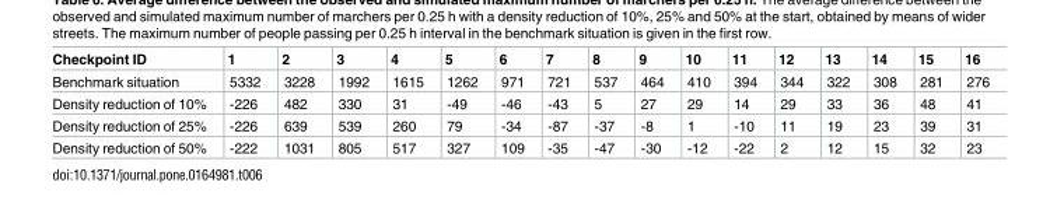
<table><thead><tr><td>Checkpoint ID</td><td>1</td><td>2</td><td>3</td><td>4</td><td>5</td><td>6</td><td>7</td><td>8</td><td>9</td><td>10</td><td>11</td><td>12</td><td>13</td><td>14</td><td>15</td><td>16</td></tr></thead><tbody><tr><td>Benchmark situation</td><td>5332</td><td>3228</td><td>1992</td><td>1615</td><td>1262</td><td>971</td><td>721</td><td>537</td><td>464</td><td>410</td><td>394</td><td>344</td><td>322</td><td>308</td><td>281</td><td>276</td></tr><tr><td>Density reduction of 10%</td><td>-226</td><td>482</td><td>330</td><td>31</td><td>-49</td><td>-46</td><td>-43</td><td>5</td><td>27</td><td>29</td><td>14</td><td>29</td><td>33</td><td>36</td><td>48</td><td>41</td></tr><tr><td>Density reduction of 25%</td><td>-226</td><td>639</td><td>539</td><td>260</td><td>79</td><td>-34</td><td>-87</td><td>-37</td><td>-8</td><td>1</td><td>-10</td><td>11</td><td>19</td><td>23</td><td>39</td><td>31</td></tr><tr><td>Density reduction of 50%</td><td>-222</td><td>1031</td><td>805</td><td>517</td><td>327</td><td>109</td><td>-35</td><td>-47</td><td>-30</td><td>-12</td><td>-22</td><td>2</td><td>12</td><td>15</td><td>32</td><td>23</td></tr></tbody></table>